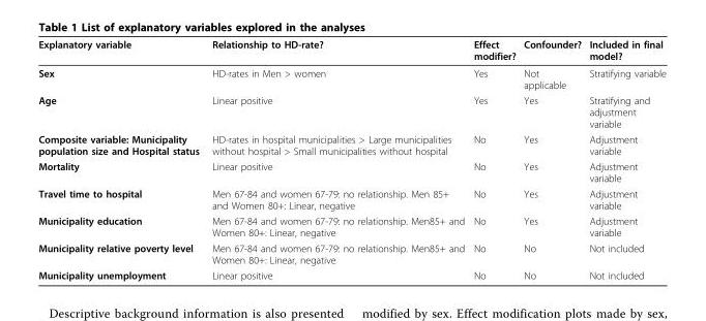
<table><thead><tr><td>Explanatory variable</td><td>Relationship to HD-rate?</td><td>Effect modifier?</td><td>Confounder?</td><td>Included in final model?</td></tr></thead><tbody><tr><td>Sex</td><td>HD-rates in Men &gt; women</td><td>Yes</td><td>Not applicable</td><td>Stratifying variable</td></tr><tr><td>Age</td><td>Linear positive</td><td>Yes</td><td>Yes</td><td>Stratifying and adjustment variable</td></tr><tr><td>Composite variable: Municipality population size and Hospital status</td><td>HD-rates in hospital municipalities &gt; Large municipalities without hospital &gt; Small municipalities without hospital</td><td>No</td><td>Yes</td><td>Adjustment variable</td></tr><tr><td>Mortality</td><td>Linear positive</td><td>No</td><td>Yes</td><td>Adjustment variable</td></tr><tr><td>Travel time to hospital</td><td>Men 67-84 and women 67-79: no relationship. Men 85+ and Women 80+: Linear, negative</td><td>No</td><td>Yes</td><td>Adjustment variable</td></tr><tr><td>Municipality education</td><td>Men 67-84 and women 67-79: no relationship. Men85+ and Women 80+: Linear, negative</td><td>No</td><td>Yes</td><td>Adjustment variable</td></tr><tr><td>Municipality relative poverty level</td><td>Men 67-84 and women 67-79: no relationship. Men85+ and Women 80+: Linear, negative</td><td>No</td><td>No</td><td>Not included</td></tr><tr><td>Municipality unemployment</td><td>Linear positive</td><td>No</td><td>No</td><td>Not included</td></tr></tbody></table>